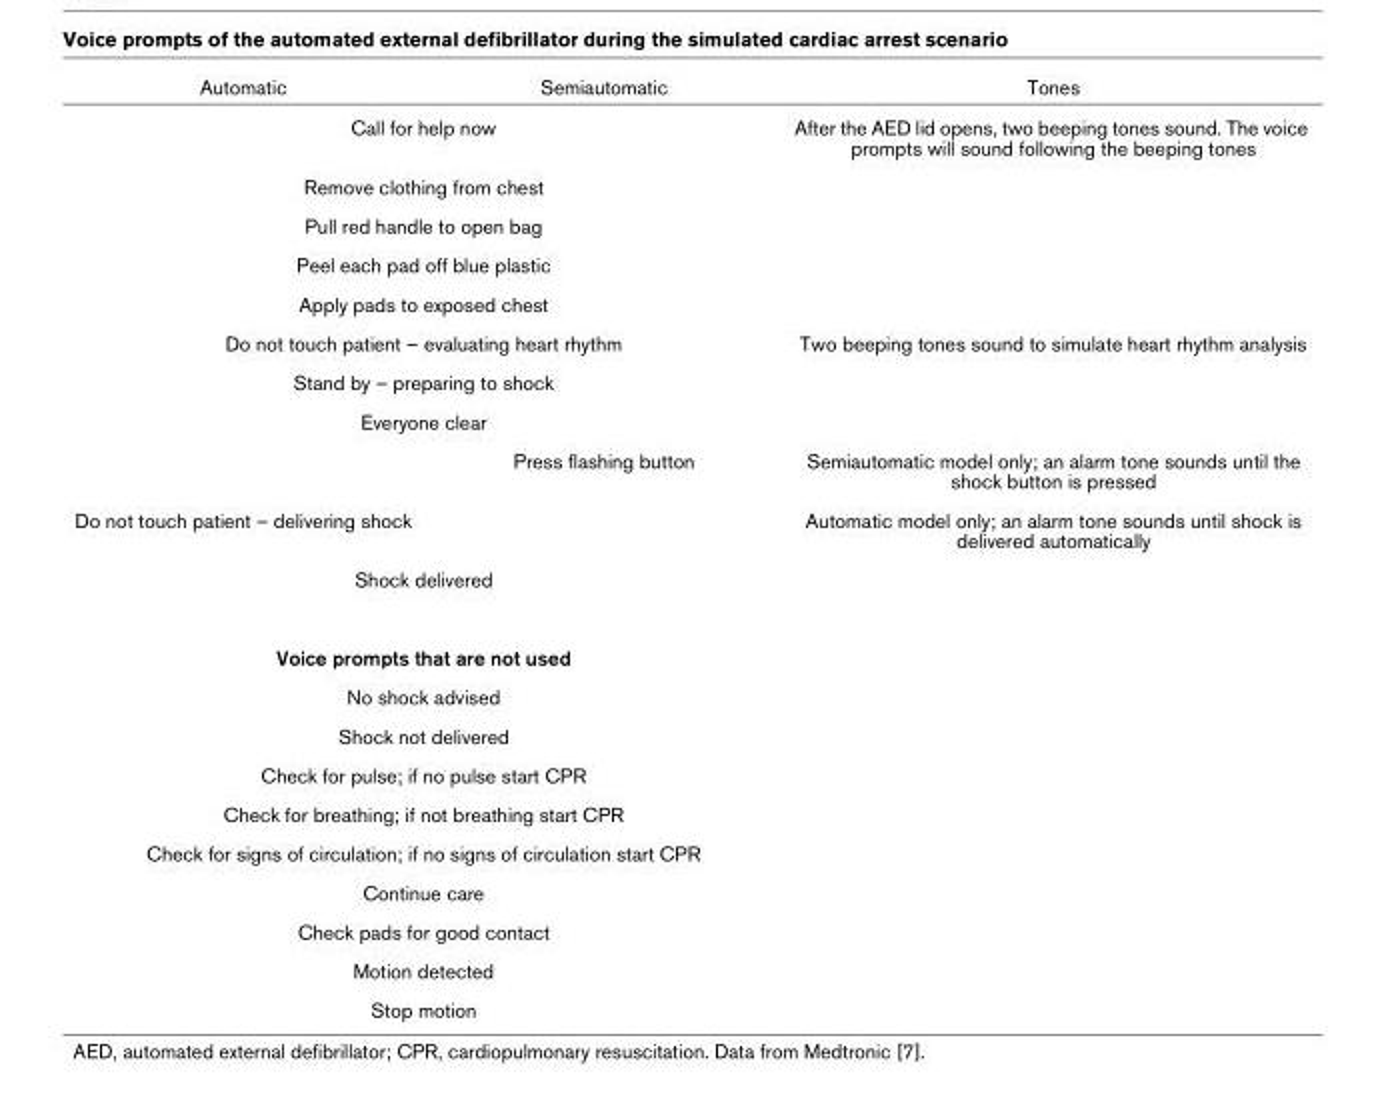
<table><thead><tr><td>Automatic</td><td>Semiautomatic</td><td>Tones</td></tr></thead><tbody><tr><td colspan="2">Call for help now</td><td>After the AED lid opens, two beeping tones sound. The voice prompts will sound following the beeping tones</td></tr><tr><td colspan="3">Remove clothing from chest</td></tr><tr><td colspan="3">Pull red handle to open bag</td></tr><tr><td colspan="3">Peel each pad off blue plastic</td></tr><tr><td colspan="3">Apply pads to exposed chest</td></tr><tr><td colspan="2">Do not touch patient – evaluating heart rhythm</td><td>Two beeping tones sound to simulate heart rhythm analysis</td></tr><tr><td colspan="3">Stand by – preparing to shock</td></tr><tr><td colspan="3">Everyone clear</td></tr><tr><td></td><td>Press flashing button</td><td>Semiautomatic model only; an alarm tone sounds until the shock button is pressed</td></tr><tr><td>Do not touch patient – delivering shock</td><td></td><td>Automatic model only; an alarm tone sounds until shock is delivered automatically</td></tr><tr><td colspan="3">Shock delivered</td></tr><tr><td colspan="3">Voice prompts that are not used</td></tr><tr><td colspan="3">No shock advised</td></tr><tr><td colspan="3">Shock not delivered</td></tr><tr><td colspan="3">Check for pulse; if no pulse start CPR</td></tr><tr><td colspan="3">Check for breathing; if not breathing start CPR</td></tr><tr><td colspan="3">Check for signs of circulation; if no signs of circulation start CPR</td></tr><tr><td colspan="3">Continue care</td></tr><tr><td colspan="3">Check pads for good contact</td></tr><tr><td colspan="3">Motion detected</td></tr><tr><td colspan="2">Stop motion</td><td></td></tr></tbody></table>